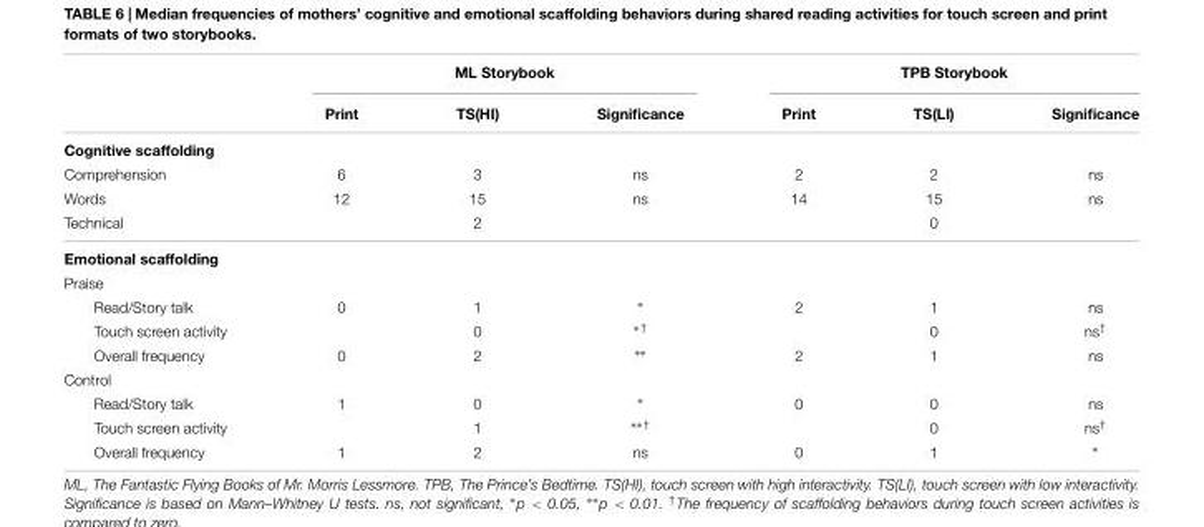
<table><thead><tr><td rowspan="2"></td><td colspan="3">ML Storybook</td><td colspan="3">TPB Storybook</td></tr><tr><td>Print</td><td>TS(HI)</td><td>Significance</td><td>Print</td><td>TS(LI)</td><td>Significance</td></tr></thead><tbody><tr><td colspan="7">Cognitive scaffolding</td></tr><tr><td>Comprehension</td><td>6</td><td>3</td><td>ns</td><td>2</td><td>2</td><td>ns</td></tr><tr><td>Words</td><td>12</td><td>15</td><td>ns</td><td>14</td><td>15</td><td>ns</td></tr><tr><td>Technical</td><td></td><td>2</td><td></td><td></td><td>0</td><td></td></tr><tr><td colspan="7">Emotional scaffolding</td></tr><tr><td colspan="7">Praise</td></tr><tr><td>Read/Story talk</td><td>0</td><td>1</td><td>∗</td><td>2</td><td>1</td><td>ns</td></tr><tr><td>Touch screen activity</td><td></td><td>0</td><td><sup>∗†</sup></td><td></td><td>0</td><td>ns<sup>†</sup></td></tr><tr><td>Overall frequency</td><td>0</td><td>2</td><td>∗∗</td><td>2</td><td>1</td><td>ns</td></tr><tr><td colspan="7">Control</td></tr><tr><td>Read/Story talk</td><td>1</td><td>0</td><td>∗</td><td>0</td><td>0</td><td>ns</td></tr><tr><td>Touch screen activity</td><td></td><td>1</td><td><sup>∗∗†</sup></td><td></td><td>0</td><td>ns<sup>†</sup></td></tr><tr><td>Overall frequency</td><td>1</td><td>2</td><td>ns</td><td>0</td><td>1</td><td>∗</td></tr></tbody></table>